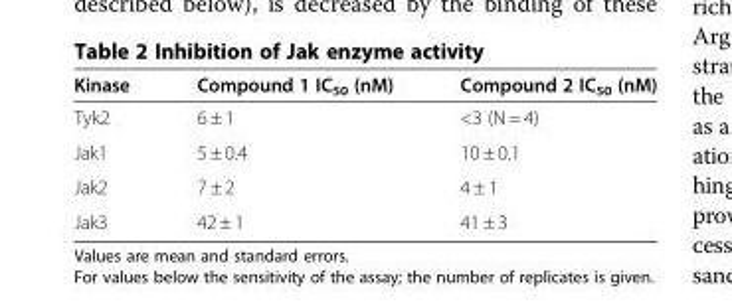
<table><thead><tr><td>Kinase</td><td>Compound 1 IC<sub>50</sub> (nM)</td><td>Compound 2 IC<sub>50</sub> (nM)</td></tr></thead><tbody><tr><td>Tyk2</td><td>6 ± 1</td><td>&lt;3 (N = 4)</td></tr><tr><td>Jak1</td><td>5 ± 0.4</td><td>10 ± 0.1</td></tr><tr><td>Jak2</td><td>7 ± 2</td><td>4 ± 1</td></tr><tr><td>Jak3</td><td>42 ± 1</td><td>41 ± 3</td></tr></tbody></table>